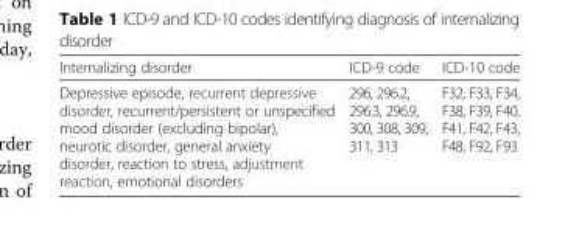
<table><thead><tr><td>Internalizing disorder</td><td>ICD-9 code</td><td>ICD-10 code</td></tr></thead><tbody><tr><td>Depressive episode, recurrent depressive disorder, recurrent/persistent or unspecified mood disorder (excluding bipolar), neurotic disorder, general anxiety disorder, reaction to stress, adjustment reaction, emotional disorders</td><td>296, 296.2, 296.3, 296.9, 300, 308, 309, 311, 313</td><td>F32, F33, F34, F38, F39, F40, F41, F42, F43, F48, F92, F93</td></tr></tbody></table>